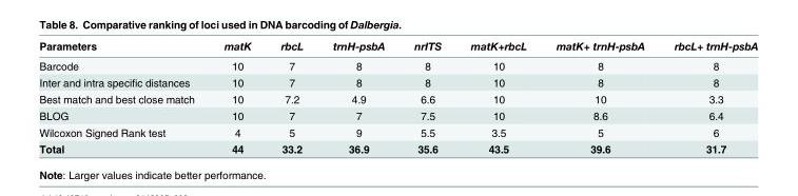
<table><thead><tr><td>Parameters</td><td>matK</td><td>rbcL</td><td>trnH-psbA</td><td>nrITS</td><td>matK+rbcL</td><td>matK+ trnH-psbA</td><td>rbcL+ trnH-psbA</td></tr></thead><tbody><tr><td>Barcode</td><td>10</td><td>7</td><td>8</td><td>8</td><td>10</td><td>8</td><td>8</td></tr><tr><td>Inter and intra specific distances</td><td>10</td><td>7</td><td>8</td><td>8</td><td>10</td><td>8</td><td>8</td></tr><tr><td>Best match and best close match</td><td>10</td><td>7.2</td><td>4.9</td><td>6.6</td><td>10</td><td>10</td><td>3.3</td></tr><tr><td>BLOG</td><td>10</td><td>7</td><td>7</td><td>7.5</td><td>10</td><td>8.6</td><td>6.4</td></tr><tr><td>Wilcoxon Signed Rank test</td><td>4</td><td>5</td><td>9</td><td>5.5</td><td>3.5</td><td>5</td><td>6</td></tr><tr><td>Total</td><td>44</td><td>33.2</td><td>36.9</td><td>35.6</td><td>43.5</td><td>39.6</td><td>31.7</td></tr></tbody></table>